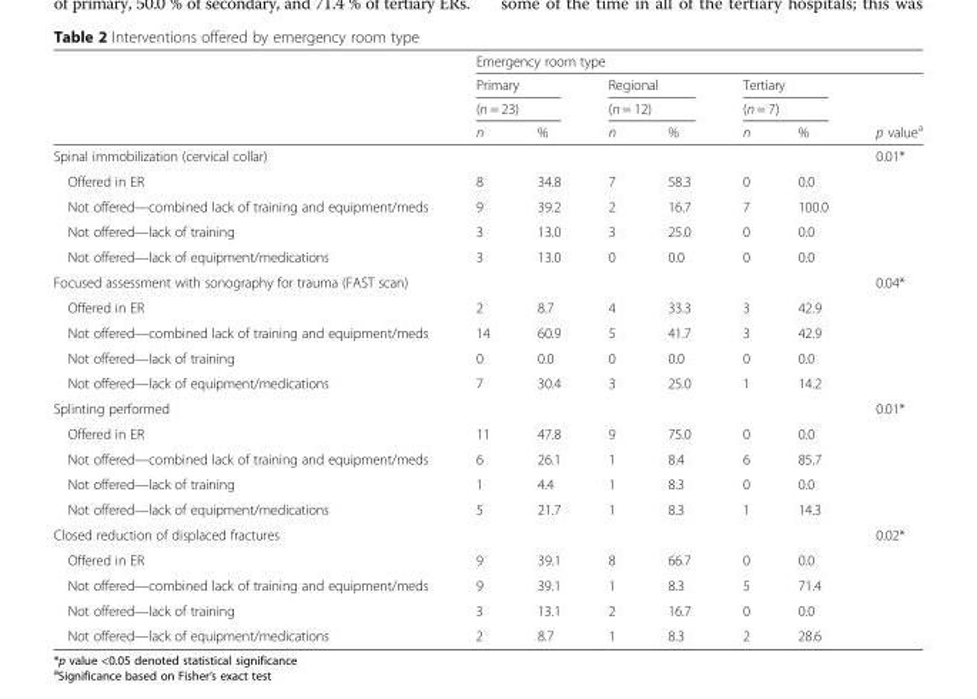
<table><thead><tr><td rowspan="4"></td><td colspan="7">Emergency room type</td></tr><tr><td rowspan="2" colspan="2">Primary (n = 23)</td><td rowspan="2" colspan="2">Regional (n = 12)</td><td rowspan="2" colspan="2">Tertiary (n = 7)</td><td rowspan="3">p value<sup>a</sup></td></tr><tr></tr><tr><td>n</td><td>%</td><td>n</td><td>%</td><td>n</td><td>%</td></tr></thead><tbody><tr><td>Spinal immobilization (cervical collar)</td><td></td><td></td><td></td><td></td><td></td><td></td><td>0.01*</td></tr><tr><td>Offered in ER</td><td>8</td><td>34.8</td><td>7</td><td>58.3</td><td>0</td><td>0.0</td><td></td></tr><tr><td>Not offered—combined lack of training and equipment/meds</td><td>9</td><td>39.2</td><td>2</td><td>16.7</td><td>7</td><td>100.0</td><td></td></tr><tr><td>Not offered—lack of training</td><td>3</td><td>13.0</td><td>3</td><td>25.0</td><td>0</td><td>0.0</td><td></td></tr><tr><td>Not offered—lack of equipment/medications</td><td>3</td><td>13.0</td><td>0</td><td>0.0</td><td>0</td><td>0.0</td><td></td></tr><tr><td>Focused assessment with sonography for trauma (FAST scan)</td><td></td><td></td><td></td><td></td><td></td><td></td><td>0.04*</td></tr><tr><td>Offered in ER</td><td>2</td><td>8.7</td><td>4</td><td>33.3</td><td>3</td><td>42.9</td><td></td></tr><tr><td>Not offered—combined lack of training and equipment/meds</td><td>14</td><td>60.9</td><td>5</td><td>41.7</td><td>3</td><td>42.9</td><td></td></tr><tr><td>Not offered—lack of training</td><td>0</td><td>0.0</td><td>0</td><td>0.0</td><td>0</td><td>0.0</td><td></td></tr><tr><td>Not offered—lack of equipment/medications</td><td>7</td><td>30.4</td><td>3</td><td>25.0</td><td>1</td><td>14.2</td><td></td></tr><tr><td>Splinting performed</td><td></td><td></td><td></td><td></td><td></td><td></td><td>0.01*</td></tr><tr><td>Offered in ER</td><td>11</td><td>47.8</td><td>9</td><td>75.0</td><td>0</td><td>0.0</td><td></td></tr><tr><td>Not offered—combined lack of training and equipment/meds</td><td>6</td><td>26.1</td><td>1</td><td>8.4</td><td>6</td><td>85.7</td><td></td></tr><tr><td>Not offered—lack of training</td><td>1</td><td>4.4</td><td>1</td><td>8.3</td><td>0</td><td>0.0</td><td></td></tr><tr><td>Not offered—lack of equipment/medications</td><td>5</td><td>21.7</td><td>1</td><td>8.3</td><td>1</td><td>14.3</td><td></td></tr><tr><td>Closed reduction of displaced fractures</td><td></td><td></td><td></td><td></td><td></td><td></td><td>0.02*</td></tr><tr><td>Offered in ER</td><td>9</td><td>39.1</td><td>8</td><td>66.7</td><td>0</td><td>0.0</td><td></td></tr><tr><td>Not offered—combined lack of training and equipment/meds</td><td>9</td><td>39.1</td><td>1</td><td>8.3</td><td>5</td><td>71.4</td><td></td></tr><tr><td>Not offered—lack of training</td><td>3</td><td>13.1</td><td>2</td><td>16.7</td><td>0</td><td>0.0</td><td></td></tr><tr><td>Not offered—lack of equipment/medications</td><td>2</td><td>8.7</td><td>1</td><td>8.3</td><td>2</td><td>28.6</td><td></td></tr></tbody></table>